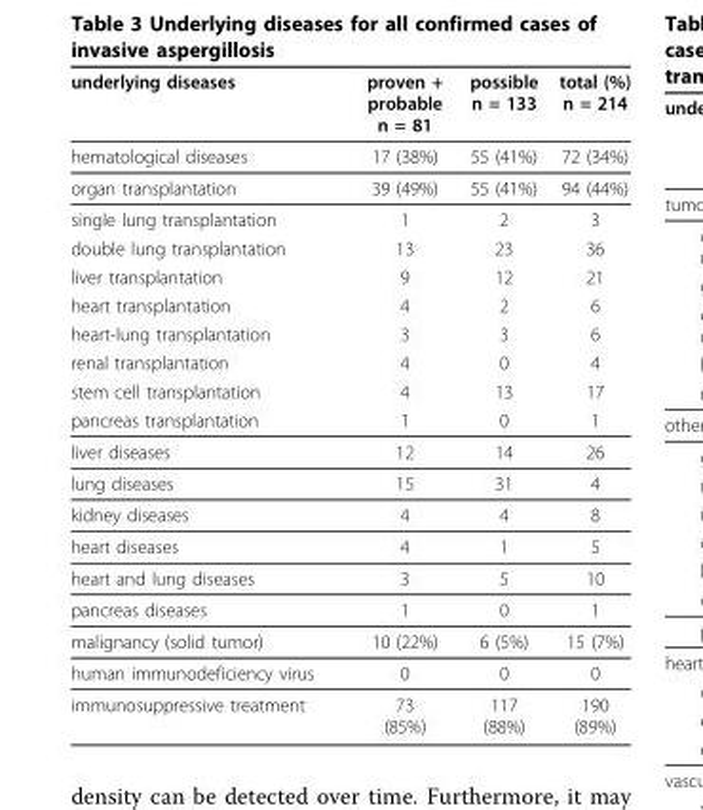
<table><thead><tr><td>underlying diseases</td><td>proven + probable n = 81</td><td>possible n = 133</td><td>total (%) n = 214</td></tr></thead><tbody><tr><td>hematological diseases</td><td>17 (38%)</td><td>55 (41%)</td><td>72 (34%)</td></tr><tr><td>organ transplantation</td><td>39 (49%)</td><td>55 (41%)</td><td>94 (44%)</td></tr><tr><td>single lung transplantation</td><td>1</td><td>2</td><td>3</td></tr><tr><td>double lung transplantation</td><td>13</td><td>23</td><td>36</td></tr><tr><td>liver transplantation</td><td>9</td><td>12</td><td>21</td></tr><tr><td>heart transplantation</td><td>4</td><td>2</td><td>6</td></tr><tr><td>heart-lung transplantation</td><td>3</td><td>3</td><td>6</td></tr><tr><td>renal transplantation</td><td>4</td><td>0</td><td>4</td></tr><tr><td>stem cell transplantation</td><td>4</td><td>13</td><td>17</td></tr><tr><td>pancreas transplantation</td><td>1</td><td>0</td><td>1</td></tr><tr><td>liver diseases</td><td>12</td><td>14</td><td>26</td></tr><tr><td>lung diseases</td><td>15</td><td>31</td><td>4</td></tr><tr><td>kidney diseases</td><td>4</td><td>4</td><td>8</td></tr><tr><td>heart diseases</td><td>4</td><td>1</td><td>5</td></tr><tr><td>heart and lung diseases</td><td>3</td><td>5</td><td>10</td></tr><tr><td>pancreas diseases</td><td>1</td><td>0</td><td>1</td></tr><tr><td>malignancy (solid tumor)</td><td>10 (22%)</td><td>6 (5%)</td><td>15 (7%)</td></tr><tr><td>human immunodeficiency virus</td><td>0</td><td>0</td><td>0</td></tr><tr><td>immunosuppressive treatment</td><td>73 (85%)</td><td>117 (88%)</td><td>190 (89%)</td></tr></tbody></table>